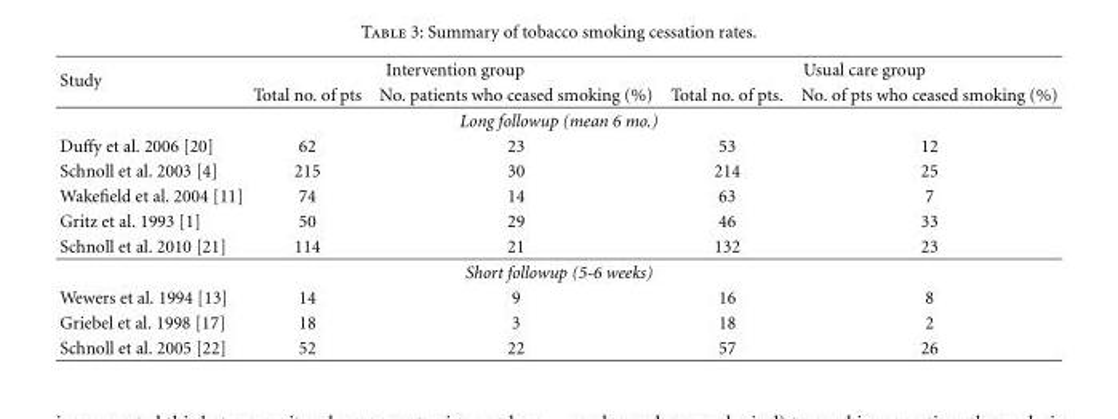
<table><thead><tr><td rowspan="2">Study</td><td colspan="2">Intervention group</td><td colspan="2">Usual care group</td></tr><tr><td>Total no. of pts</td><td>No. patients who ceased smoking (%)</td><td>Total no. of pts.</td><td>No. of pts who ceased smoking (%)</td></tr></thead><tbody><tr><td colspan="5">Long followup (mean 6 mo.)</td></tr><tr><td>Duffy et al. 2006 [20]</td><td>62</td><td>23</td><td>53</td><td>12</td></tr><tr><td>Schnoll et al. 2003 [4]</td><td>215</td><td>30</td><td>214</td><td>25</td></tr><tr><td>Wakefield et al. 2004 [11]</td><td>74</td><td>14</td><td>63</td><td>7</td></tr><tr><td>Gritz et al. 1993 [1]</td><td>50</td><td>29</td><td>46</td><td>33</td></tr><tr><td>Schnoll et al. 2010 [21]</td><td>114</td><td>21</td><td>132</td><td>23</td></tr><tr><td colspan="5">Short followup (5-6 weeks)</td></tr><tr><td>Wewers et al. 1994 [13]</td><td>14</td><td>9</td><td>16</td><td>8</td></tr><tr><td>Griebel et al. 1998 [17]</td><td>18</td><td>3</td><td>18</td><td>2</td></tr><tr><td>Schnoll et al. 2005 [22]</td><td>52</td><td>22</td><td>57</td><td>26</td></tr></tbody></table>